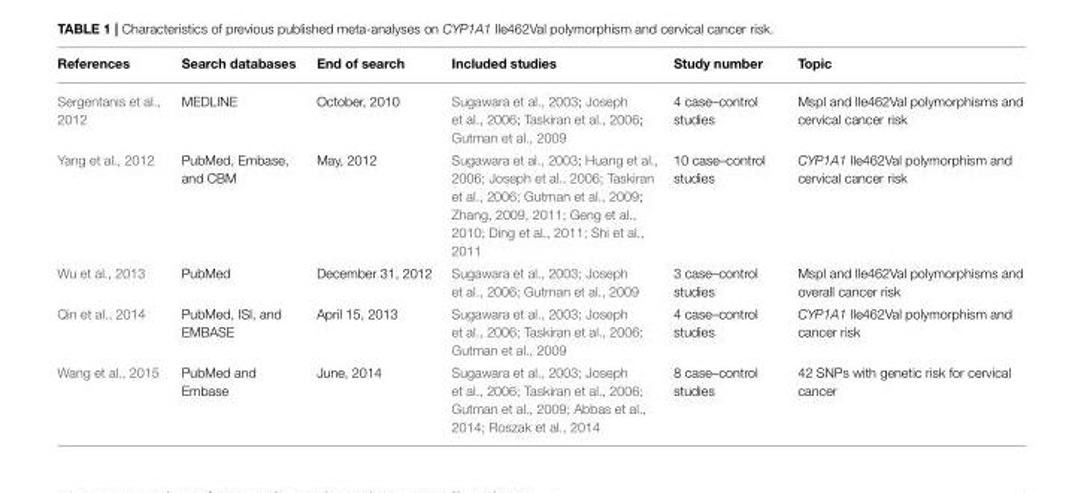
<table><thead><tr><td>References</td><td>Search databases</td><td>End of search</td><td>Included studies</td><td>Study number</td><td>Topic</td></tr></thead><tbody><tr><td>Sergentanis et al., 2012</td><td>MEDLINE</td><td>October, 2010</td><td>Sugawara et al., 2003; Joseph et al., 2006; Taskiran et al., 2006; Gutman et al., 2009</td><td>4 case–control studies</td><td>MspI and Ile462Val polymorphisms and cervical cancer risk</td></tr><tr><td>Yang et al., 2012</td><td>PubMed, Embase, and CBM</td><td>May, 2012</td><td>Sugawara et al., 2003; Huang et al., 2006; Joseph et al., 2006; Taskiran et al., 2006; Gutman et al., 2009; Zhang, 2009, 2011; Geng et al., 2010; Ding et al., 2011; Shi et al., 2011</td><td>10 case–control studies</td><td>CYP1A1 Ile462Val polymorphism and cervical cancer risk</td></tr><tr><td>Wu et al., 2013</td><td>PubMed</td><td>December 31, 2012</td><td>Sugawara et al., 2003; Joseph et al., 2006; Gutman et al., 2009</td><td>3 case–control studies</td><td>MspI and Ile462Val polymorphisms and overall cancer risk</td></tr><tr><td>Qin et al., 2014</td><td>PubMed, ISI, and EMBASE</td><td>April 15, 2013</td><td>Sugawara et al., 2003; Joseph et al., 2006; Taskiran et al., 2006; Gutman et al., 2009</td><td>4 case–control studies</td><td>CYP1A1 Ile462Val polymorphism and cancer risk</td></tr><tr><td>Wang et al., 2015</td><td>PubMed and Embase</td><td>June, 2014</td><td>Sugawara et al., 2003; Joseph et al., 2006; Taskiran et al., 2006; Gutman et al., 2009; Abbas et al., 2014; Roszak et al., 2014</td><td>8 case–control studies</td><td>42 SNPs with genetic risk for cervical cancer</td></tr></tbody></table>